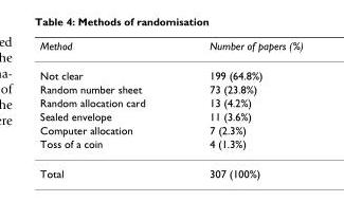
<table><thead><tr><td>Method</td><td>Number of papers (%)</td></tr></thead><tbody><tr><td>Not clear</td><td>199 (64.8%)</td></tr><tr><td>Random number sheet</td><td>73 (23.8%)</td></tr><tr><td>Random allocation card</td><td>13 (4.2%)</td></tr><tr><td>Sealed envelope</td><td>11 (3.6%)</td></tr><tr><td>Computer allocation</td><td>7 (2.3%)</td></tr><tr><td>Toss of a coin</td><td>4 (1.3%)</td></tr><tr><td>Total</td><td>307 (100%)</td></tr></tbody></table>